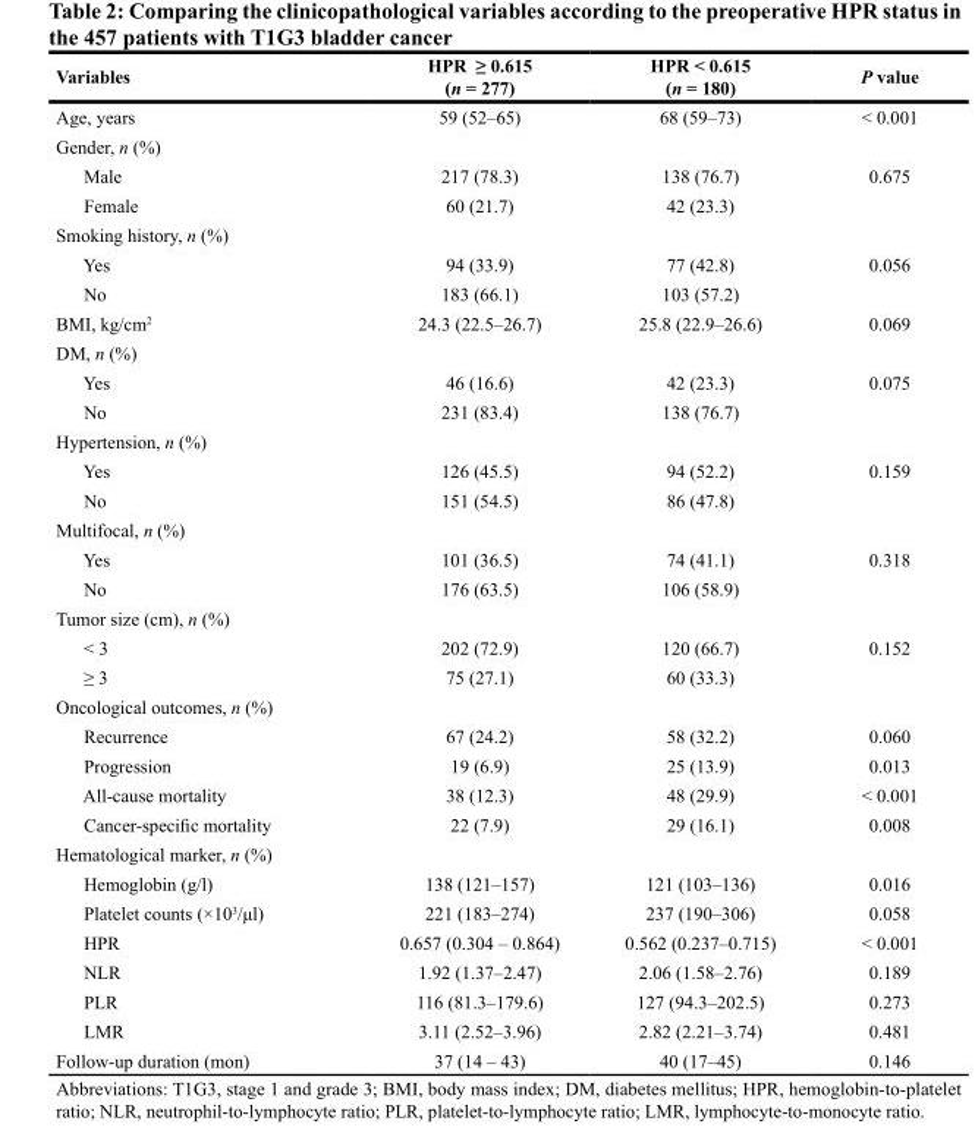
<table><thead><tr><td>Variables</td><td>HPR ≥ 0.615 (n = 277)</td><td>HPR &lt; 0.615 (n = 180)</td><td>P value</td></tr></thead><tbody><tr><td>Age, years</td><td>59 (52–65)</td><td>68 (59–73)</td><td>&lt; 0.001</td></tr><tr><td colspan="4">Gender, n (%)</td></tr><tr><td>Male</td><td>217 (78.3)</td><td>138 (76.7)</td><td>0.675</td></tr><tr><td>Female</td><td>60 (21.7)</td><td>42 (23.3)</td><td></td></tr><tr><td colspan="4">Smoking history, n (%)</td></tr><tr><td>Yes</td><td>94 (33.9)</td><td>77 (42.8)</td><td>0.056</td></tr><tr><td>No</td><td>183 (66.1)</td><td>103 (57.2)</td><td></td></tr><tr><td>BMI, kg/cm<sup>2</sup></td><td>24.3 (22.5–26.7)</td><td>25.8 (22.9–26.6)</td><td>0.069</td></tr><tr><td colspan="4">DM, n (%)</td></tr><tr><td>Yes</td><td>46 (16.6)</td><td>42 (23.3)</td><td>0.075</td></tr><tr><td>No</td><td>231 (83.4)</td><td>138 (76.7)</td><td></td></tr><tr><td colspan="4">Hypertension, n (%)</td></tr><tr><td>Yes</td><td>126 (45.5)</td><td>94 (52.2)</td><td>0.159</td></tr><tr><td>No</td><td>151 (54.5)</td><td>86 (47.8)</td><td></td></tr><tr><td colspan="4">Multifocal, n (%)</td></tr><tr><td>Yes</td><td>101 (36.5)</td><td>74 (41.1)</td><td>0.318</td></tr><tr><td>No</td><td>176 (63.5)</td><td>106 (58.9)</td><td></td></tr><tr><td colspan="4">Tumor size (cm), n (%)</td></tr><tr><td>&lt; 3</td><td>202 (72.9)</td><td>120 (66.7)</td><td>0.152</td></tr><tr><td>≥ 3</td><td>75 (27.1)</td><td>60 (33.3)</td><td></td></tr><tr><td colspan="4">Oncological outcomes, n (%)</td></tr><tr><td>Recurrence</td><td>67 (24.2)</td><td>58 (32.2)</td><td>0.060</td></tr><tr><td>Progression</td><td>19 (6.9)</td><td>25 (13.9)</td><td>0.013</td></tr><tr><td>All-cause mortality</td><td>38 (12.3)</td><td>48 (29.9)</td><td>&lt; 0.001</td></tr><tr><td>Cancer-specific mortality</td><td>22 (7.9)</td><td>29 (16.1)</td><td>0.008</td></tr><tr><td colspan="4">Hematological marker, n (%)</td></tr><tr><td>Hemoglobin (g/l)</td><td>138 (121–157)</td><td>121 (103–136)</td><td>0.016</td></tr><tr><td>Platelet counts (×10<sup>3</sup>/μl)</td><td>221 (183–274)</td><td>237 (190–306)</td><td>0.058</td></tr><tr><td>HPR</td><td>0.657 (0.304 – 0.864)</td><td>0.562 (0.237–0.715)</td><td>&lt; 0.001</td></tr><tr><td>NLR</td><td>1.92 (1.37–2.47)</td><td>2.06 (1.58–2.76)</td><td>0.189</td></tr><tr><td>PLR</td><td>116 (81.3–179.6)</td><td>127 (94.3–202.5)</td><td>0.273</td></tr><tr><td>LMR</td><td>3.11 (2.52–3.96)</td><td>2.82 (2.21–3.74)</td><td>0.481</td></tr><tr><td>Follow-up duration (mon)</td><td>37 (14 – 43)</td><td>40 (17–45)</td><td>0.146</td></tr></tbody></table>